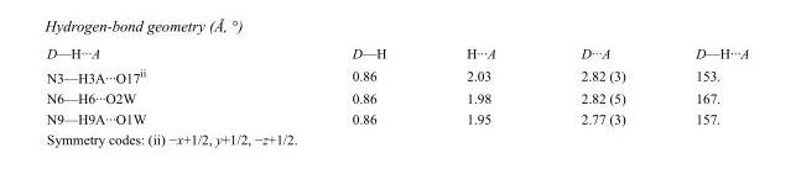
<table><tbody><tr><td>D—H···A</td><td>D—H</td><td>H···A</td><td>D···A</td><td>D—H···A</td></tr><tr><td>N3—H3A···O17<sup>ii</sup></td><td>0.86</td><td>2.03</td><td>2.82 (3)</td><td>153.</td></tr><tr><td>N6—H6···O2W</td><td>0.86</td><td>1.98</td><td>2.82 (5)</td><td>167.</td></tr><tr><td>N9—H9A···O1W</td><td>0.86</td><td>1.95</td><td>2.77 (3)</td><td>157.</td></tr></tbody></table>